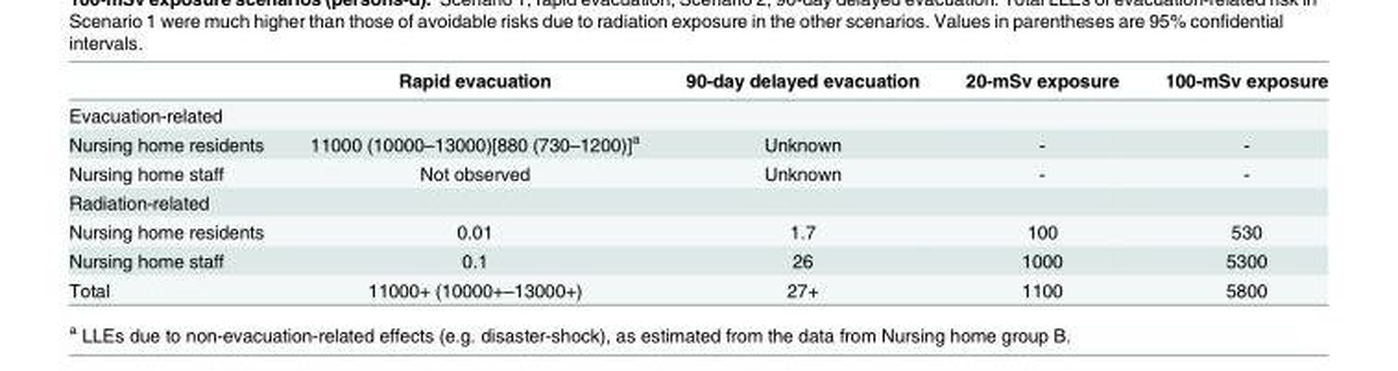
<table><thead><tr><td></td><td>Rapid evacuation</td><td>90-day delayed evacuation</td><td>20-mSv exposure</td><td>100-mSv exposure</td></tr></thead><tbody><tr><td colspan="5">Evacuation-related</td></tr><tr><td>Nursing home residents</td><td>11000 (10000–13000)[880 (730–1200)]<sup>a</sup></td><td>Unknown</td><td>-</td><td>-</td></tr><tr><td>Nursing home staff</td><td>Not observed</td><td>Unknown</td><td>-</td><td>-</td></tr><tr><td colspan="5">Radiation-related</td></tr><tr><td>Nursing home residents</td><td>0.01</td><td>1.7</td><td>100</td><td>530</td></tr><tr><td>Nursing home staff</td><td>0.1</td><td>26</td><td>1000</td><td>5300</td></tr><tr><td>Total</td><td>11000+ (10000+–13000+)</td><td>27+</td><td>1100</td><td>5800</td></tr></tbody></table>